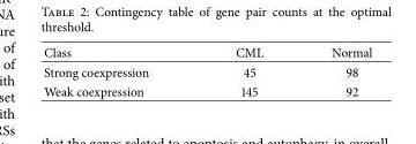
<table><thead><tr><td>Class</td><td>CML</td><td>Normal</td></tr></thead><tbody><tr><td>Strong coexpression</td><td>45</td><td>98</td></tr><tr><td>Weak coexpression</td><td>145</td><td>92</td></tr></tbody></table>